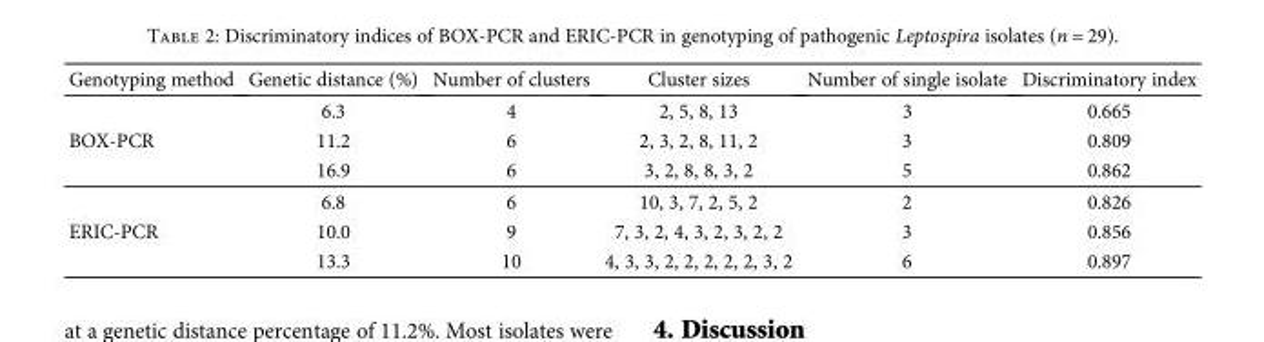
<table><thead><tr><td>Genotyping method</td><td>Genetic distance (%)</td><td>Number of clusters</td><td>Cluster sizes</td><td>Number of single isolate</td><td>Discriminatory index</td></tr></thead><tbody><tr><td rowspan="3">BOX-PCR</td><td>6.3</td><td>4</td><td>2, 5, 8, 13</td><td>3</td><td>0.665</td></tr><tr><td>11.2</td><td>6</td><td>2, 3, 2, 8, 11, 2</td><td>3</td><td>0.809</td></tr><tr><td>16.9</td><td>6</td><td>3, 2, 8, 8, 3, 2</td><td>5</td><td>0.862</td></tr><tr><td rowspan="3">ERIC-PCR</td><td>6.8</td><td>6</td><td>10, 3, 7, 2, 5, 2</td><td>2</td><td>0.826</td></tr><tr><td>10.0</td><td>9</td><td>7, 3, 2, 4, 3, 2, 3, 2, 2</td><td>3</td><td>0.856</td></tr><tr><td>13.3</td><td>10</td><td>4, 3, 3, 2, 2, 2, 2, 2, 3, 2</td><td>6</td><td>0.897</td></tr></tbody></table>